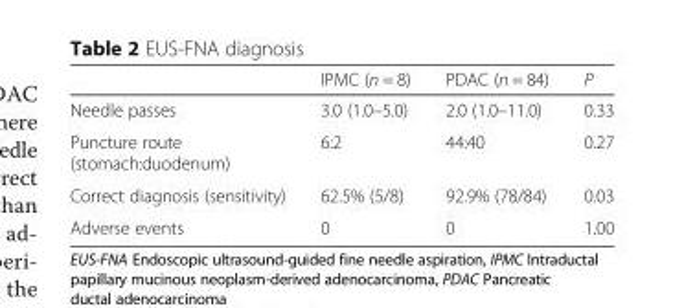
<table><thead><tr><td></td><td>IPMC (n = 8)</td><td>PDAC (n = 84)</td><td>P</td></tr></thead><tbody><tr><td>Needle passes</td><td>3.0 (1.0–5.0)</td><td>2.0 (1.0–11.0)</td><td>0.33</td></tr><tr><td>Puncture route (stomach:duodenum)</td><td>6:2</td><td>44:40</td><td>0.27</td></tr><tr><td>Correct diagnosis (sensitivity)</td><td>62.5% (5/8)</td><td>92.9% (78/84)</td><td>0.03</td></tr><tr><td>Adverse events</td><td>0</td><td>0</td><td>1.00</td></tr></tbody></table>